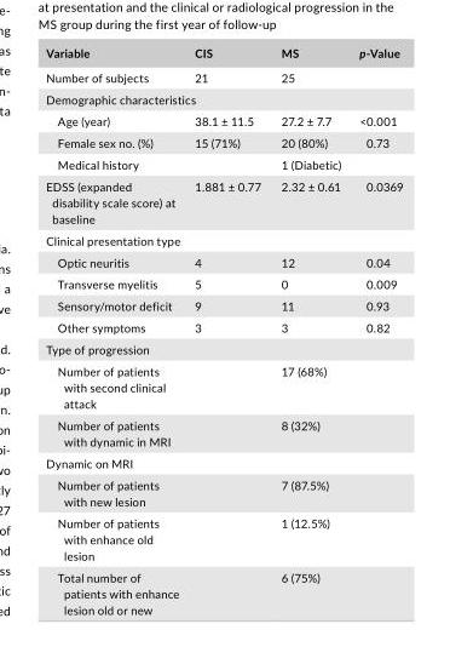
<table><thead><tr><td>Variable</td><td>CIS</td><td>MS</td><td>p- Value</td></tr></thead><tbody><tr><td>Number of subjects</td><td>21</td><td>25</td><td></td></tr><tr><td colspan="4">Demographic characteristics</td></tr><tr><td>Age (year)</td><td>38.1 ± 11.5</td><td>27.2 ± 7.7</td><td>&lt;0.001</td></tr><tr><td>Female sex no. (%)</td><td>15 (71%)</td><td>20 (80%)</td><td>0.73</td></tr><tr><td>Medical history</td><td></td><td>1 (Diabetic)</td><td></td></tr><tr><td>EDSS (expanded disability scale score) at baseline</td><td>1.881 ± 0.77</td><td>2.32 ± 0.61</td><td>0.0369</td></tr><tr><td colspan="4">Clinical presentation type</td></tr><tr><td>Optic neuritis</td><td>4</td><td>12</td><td>0.04</td></tr><tr><td>Transverse myelitis</td><td>5</td><td>0</td><td>0.009</td></tr><tr><td>Sensory/motor deficit</td><td>9</td><td>11</td><td>0.93</td></tr><tr><td>Other symptoms</td><td>3</td><td>3</td><td>0.82</td></tr><tr><td colspan="4">Type of progression</td></tr><tr><td>Number of patients with second clinical attack</td><td></td><td>17 (68%)</td><td></td></tr><tr><td>Number of patients with dynamic in MRI</td><td></td><td>8 (32%)</td><td></td></tr><tr><td colspan="4">Dynamic on MRI</td></tr><tr><td>Number of patients with new lesion</td><td></td><td>7 (87.5%)</td><td></td></tr><tr><td>Number of patients with enhance old lesion</td><td></td><td>1 (12.5%)</td><td></td></tr><tr><td>Total number of patients with enhance lesion old or new</td><td></td><td>6 (75%)</td><td></td></tr></tbody></table>